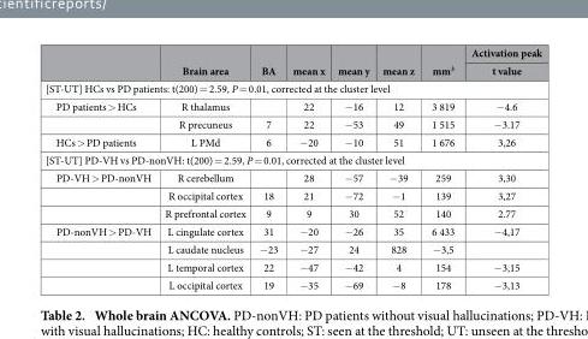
<table><thead><tr><td rowspan="2"></td><td rowspan="2">Brain area</td><td rowspan="2">BA</td><td rowspan="2">mean x</td><td rowspan="2">mean y</td><td rowspan="2">mean z</td><td rowspan="2">mm<sup>3</sup></td><td rowspan="2">Activation peak t value</td></tr><tr></tr></thead><tbody><tr><td colspan="8">[ST-UT] HCs vs PD patients: t(200) = 2.59, P = 0.01, corrected at the cluster level</td></tr><tr><td rowspan="2">PD patients &gt; HCs</td><td>R thalamus</td><td></td><td>22</td><td>− 16</td><td>12</td><td>3 819</td><td>− 4.6</td></tr><tr><td>R precuneus</td><td>7</td><td>22</td><td>− 53</td><td>49</td><td>1 515</td><td>− 3.17</td></tr><tr><td>HCs &gt; PD patients</td><td>L PMd</td><td>6</td><td>− 20</td><td>− 10</td><td>51</td><td>1 676</td><td>3,26</td></tr><tr><td colspan="8">[ST-UT] PD-VH vs PD-nonVH: t(200) = 2.59, P = 0.01, corrected at the cluster level</td></tr><tr><td rowspan="3">PD-VH &gt; PD-nonVH</td><td>R cerebellum</td><td></td><td>28</td><td>− 57</td><td>− 39</td><td>259</td><td>3,30</td></tr><tr><td>R occipital cortex</td><td>18</td><td>21</td><td>− 72</td><td>− 1</td><td>139</td><td>3,27</td></tr><tr><td>R prefrontal cortex</td><td>9</td><td>9</td><td>30</td><td>52</td><td>140</td><td>2.77</td></tr><tr><td rowspan="4">PD-nonVH &gt; PD-VH</td><td>L cingulate cortex</td><td>31</td><td>− 20</td><td>− 26</td><td>35</td><td>6 433</td><td>− 4,17</td></tr><tr><td>L caudate nucleus</td><td>− 23</td><td>− 27</td><td>24</td><td>828</td><td>− 3,5</td><td></td></tr><tr><td>L temporal cortex</td><td>22</td><td>− 47</td><td>− 42</td><td>4</td><td>154</td><td>− 3,15</td></tr><tr><td>L occipital cortex</td><td>19</td><td>− 35</td><td>− 69</td><td>− 8</td><td>178</td><td>− 3,13</td></tr></tbody></table>